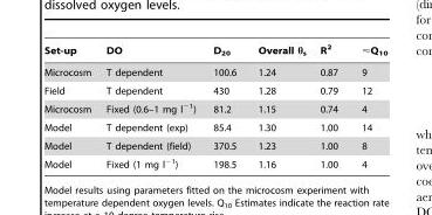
<table><thead><tr><td>Set-up</td><td>DO</td><td>D<sub>20</sub></td><td>Overall θ<sub>s</sub></td><td>R<sup>2</sup></td><td>&lt;Q10</td></tr></thead><tbody><tr><td>Microcosm</td><td>T dependent</td><td>100.6</td><td>1.24</td><td>0.87</td><td>9</td></tr><tr><td>Field</td><td>T dependent</td><td>430</td><td>1.28</td><td>0.79</td><td>12</td></tr><tr><td>Microcosm</td><td>Fixed (0.6–1 mg l<sup>−1</sup>)</td><td>81.2</td><td>1.15</td><td>0.74</td><td>4</td></tr><tr><td>Model</td><td>T dependent (exp)</td><td>85.4</td><td>1.30</td><td>1.00</td><td>14</td></tr><tr><td>Model</td><td>T dependent (field)</td><td>370.5</td><td>1.23</td><td>1.00</td><td>8</td></tr><tr><td>Model</td><td>Fixed (1 mg l<sup>−1</sup>)</td><td>198.5</td><td>1.16</td><td>1.00</td><td>4</td></tr></tbody></table>